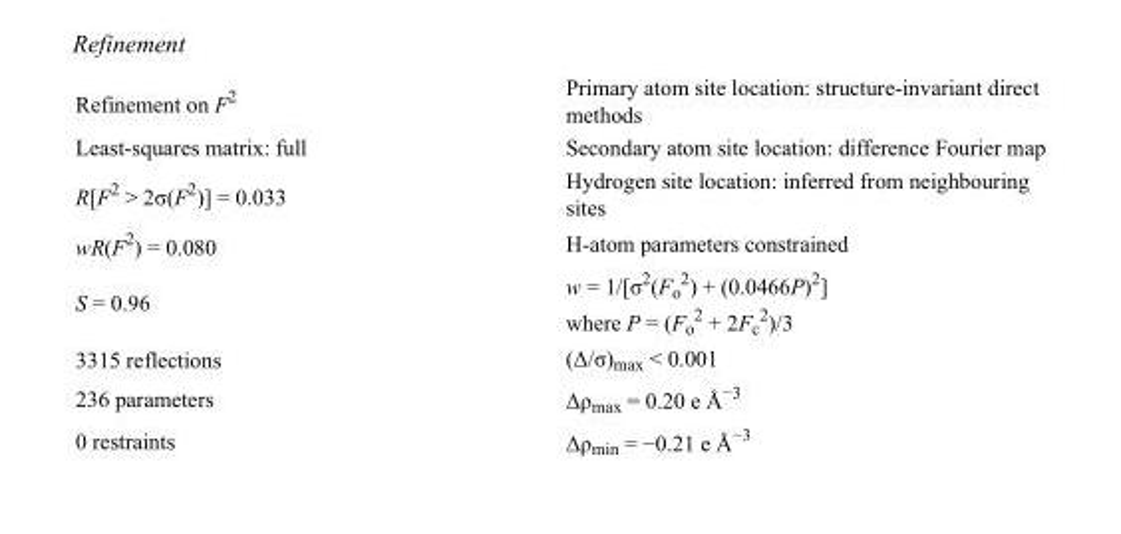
<table><tbody><tr><td>Refinement on F<sup>2</sup></td><td>Primary atom site location: structure-invariant direct methods</td></tr><tr><td>Least-squares matrix: full</td><td>Secondary atom site location: difference Fourier map</td></tr><tr><td>R[F<sup>2</sup> &gt; 2σ(F<sup>2</sup>)] = 0.033</td><td>Hydrogen site location: inferred from neighbouring sites</td></tr><tr><td>wR(F<sup>2</sup>) = 0.080</td><td>H-atom parameters constrained</td></tr><tr><td>S = 0.96</td><td>w = 1/[σ<sup>2</sup>(F<sub>o</sub> <sup>2</sup>) + (0.0466P)<sup>2</sup>] where P = (F<sub>o</sub> <sup>2</sup> + 2F<sub>c</sub> <sup>2</sup>)/3</td></tr><tr><td>3315 reflections</td><td>(Δ/σ)<sub>max</sub> &lt; 0.001</td></tr><tr><td>236 parameters</td><td>Δρ<sub>max</sub> = 0.20 e Å<sup>−3</sup></td></tr><tr><td>0 restraints</td><td>Δρmin = −0.21 e Å−3</td></tr></tbody></table>